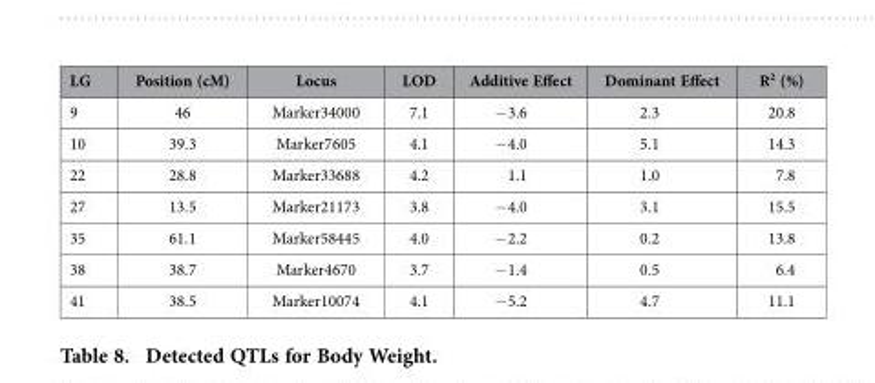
<table><thead><tr><td>LG</td><td>Position (cM)</td><td>Locus</td><td>LOD</td><td>Additive Effect</td><td>Dominant Effect</td><td>R<sup>2</sup> (%)</td></tr></thead><tbody><tr><td>9</td><td>46</td><td>Marker34000</td><td>7.1</td><td>− 3.6</td><td>2.3</td><td>20.8</td></tr><tr><td>10</td><td>39.3</td><td>Marker7605</td><td>4.1</td><td>− 4.0</td><td>5.1</td><td>14.3</td></tr><tr><td>22</td><td>28.8</td><td>Marker33688</td><td>4.2</td><td>1.1</td><td>1.0</td><td>7.8</td></tr><tr><td>27</td><td>13.5</td><td>Marker21173</td><td>3.8</td><td>− 4.0</td><td>3.1</td><td>15.5</td></tr><tr><td>35</td><td>61.1</td><td>Marker58445</td><td>4.0</td><td>− 2.2</td><td>0.2</td><td>13.8</td></tr><tr><td>38</td><td>38.7</td><td>Marker4670</td><td>3.7</td><td>− 1.4</td><td>0.5</td><td>6.4</td></tr><tr><td>41</td><td>38.5</td><td>Marker10074</td><td>4.1</td><td>− 5.2</td><td>4.7</td><td>11.1</td></tr></tbody></table>